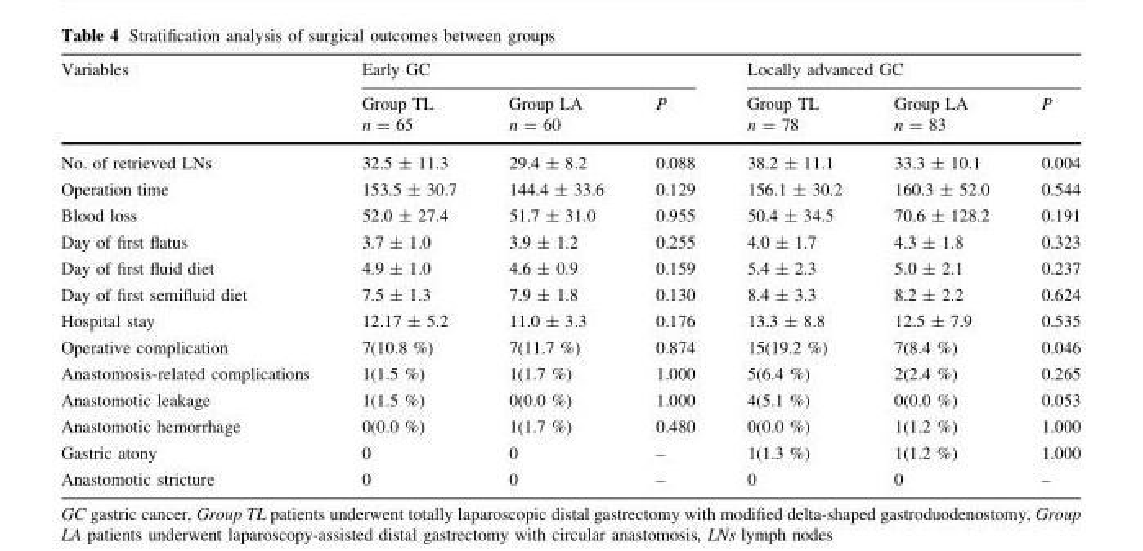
<table><thead><tr><td rowspan="2">Variables</td><td colspan="3">Early GC</td><td colspan="3">Locally advanced GC</td></tr><tr><td>Group TL n = 65</td><td>Group LA n = 60</td><td>P</td><td>Group TL n = 78</td><td>Group LA n = 83</td><td>P</td></tr></thead><tbody><tr><td>No. of retrieved LNs</td><td>32.5 ± 11.3</td><td>29.4 ± 8.2</td><td>0.088</td><td>38.2 ± 11.1</td><td>33.3 ± 10.1</td><td>0.004</td></tr><tr><td>Operation time</td><td>153.5 ± 30.7</td><td>144.4 ± 33.6</td><td>0.129</td><td>156.1 ± 30.2</td><td>160.3 ± 52.0</td><td>0.544</td></tr><tr><td>Blood loss</td><td>52.0 ± 27.4</td><td>51.7 ± 31.0</td><td>0.955</td><td>50.4 ± 34.5</td><td>70.6 ± 128.2</td><td>0.191</td></tr><tr><td>Day of first flatus</td><td>3.7 ± 1.0</td><td>3.9 ± 1.2</td><td>0.255</td><td>4.0 ± 1.7</td><td>4.3 ± 1.8</td><td>0.323</td></tr><tr><td>Day of first fluid diet</td><td>4.9 ± 1.0</td><td>4.6 ± 0.9</td><td>0.159</td><td>5.4 ± 2.3</td><td>5.0 ± 2.1</td><td>0.237</td></tr><tr><td>Day of first semifluid diet</td><td>7.5 ± 1.3</td><td>7.9 ± 1.8</td><td>0.130</td><td>8.4 ± 3.3</td><td>8.2 ± 2.2</td><td>0.624</td></tr><tr><td>Hospital stay</td><td>12.17 ± 5.2</td><td>11.0 ± 3.3</td><td>0.176</td><td>13.3 ± 8.8</td><td>12.5 ± 7.9</td><td>0.535</td></tr><tr><td>Operative complication</td><td>7(10.8 %)</td><td>7(11.7 %)</td><td>0.874</td><td>15(19.2 %)</td><td>7(8.4 %)</td><td>0.046</td></tr><tr><td>Anastomosis-related complications</td><td>1(1.5 %)</td><td>1(1.7 %)</td><td>1.000</td><td>5(6.4 %)</td><td>2(2.4 %)</td><td>0.265</td></tr><tr><td>Anastomotic leakage</td><td>1(1.5 %)</td><td>0(0.0 %)</td><td>1.000</td><td>4(5.1 %)</td><td>0(0.0 %)</td><td>0.053</td></tr><tr><td>Anastomotic hemorrhage</td><td>0(0.0 %)</td><td>1(1.7 %)</td><td>0.480</td><td>0(0.0 %)</td><td>1(1.2 %)</td><td>1.000</td></tr><tr><td>Gastric atony</td><td>0</td><td>0</td><td>–</td><td>1(1.3 %)</td><td>1(1.2 %)</td><td>1.000</td></tr><tr><td>Anastomotic stricture</td><td>0</td><td>0</td><td>–</td><td>0</td><td>0</td><td>–</td></tr></tbody></table>